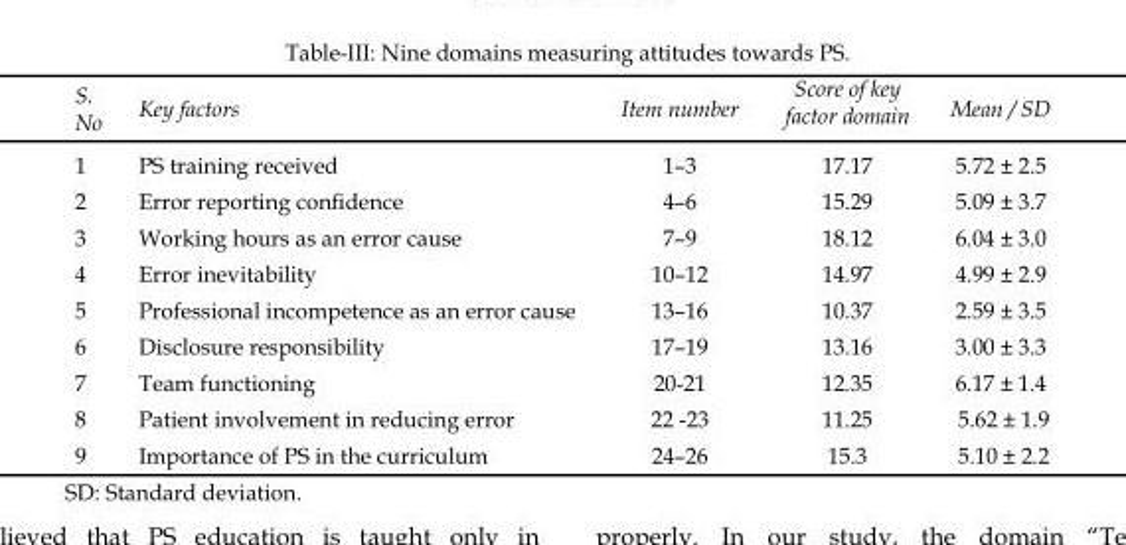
<table><thead><tr><td>S. No</td><td>Key factors</td><td>Item number</td><td>Score of key factor domain</td><td>Mean / SD</td></tr></thead><tbody><tr><td>1</td><td>PS training received</td><td>1–3</td><td>17.17</td><td>5.72 ± 2.5</td></tr><tr><td>2</td><td>Error reporting confidence</td><td>4–6</td><td>15.29</td><td>5.09 ± 3.7</td></tr><tr><td>3</td><td>Working hours as an error cause</td><td>7–9</td><td>18.12</td><td>6.04 ± 3.0</td></tr><tr><td>4</td><td>Error inevitability</td><td>10–12</td><td>14.97</td><td>4.99 ± 2.9</td></tr><tr><td>5</td><td>Professional incompetence as an error cause</td><td>13–16</td><td>10.37</td><td>2.59 ± 3.5</td></tr><tr><td>6</td><td>Disclosure responsibility</td><td>17–19</td><td>13.16</td><td>3.00 ± 3.3</td></tr><tr><td>7</td><td>Team functioning</td><td>20-21</td><td>12.35</td><td>6.17 ± 1.4</td></tr><tr><td>8</td><td>Patient involvement in reducing error</td><td>22 -23</td><td>11.25</td><td>5.62 ± 1.9</td></tr><tr><td>9</td><td>Importance of PS in the curriculum</td><td>24–26</td><td>15.3</td><td>5.10 ± 2.2</td></tr></tbody></table>